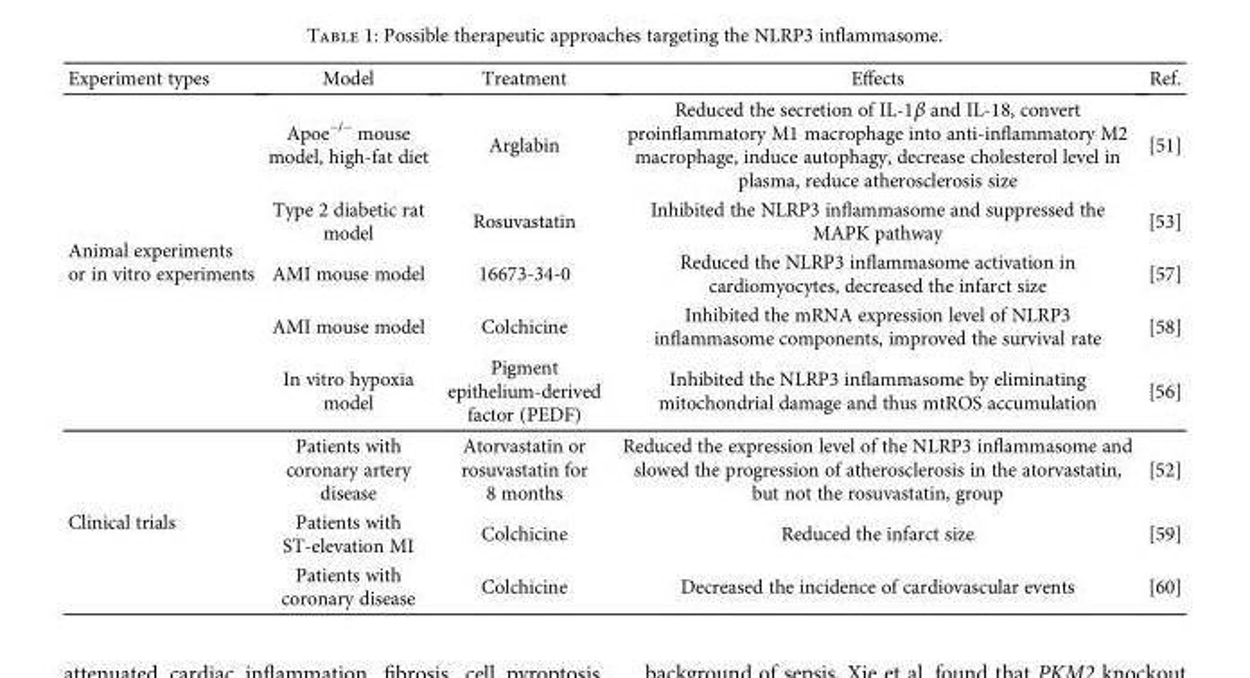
<table><thead><tr><td>Experiment types</td><td>Model</td><td>Treatment</td><td>Effects</td><td>Ref.</td></tr></thead><tbody><tr><td rowspan="5">Animal experiments or in vitro experiments</td><td>Apoe<sup>−/−</sup> mouse model, high-fat diet</td><td>Arglabin</td><td>Reduced the secretion of IL-1β and IL-18, convert proinflammatory M1 macrophage into anti-inflammatory M2 macrophage, induce autophagy, decrease cholesterol level in plasma, reduce atherosclerosis size</td><td>[51]</td></tr><tr><td>Type 2 diabetic rat model</td><td>Rosuvastatin</td><td>Inhibited the NLRP3 inflammasome and suppressed the MAPK pathway</td><td>[53]</td></tr><tr><td>AMI mouse model</td><td>16673-34-0</td><td>Reduced the NLRP3 inflammasome activation in cardiomyocytes, decreased the infarct size</td><td>[57]</td></tr><tr><td>AMI mouse model</td><td>Colchicine</td><td>Inhibited the mRNA expression level of NLRP3 inflammasome components, improved the survival rate</td><td>[58]</td></tr><tr><td>In vitro hypoxia model</td><td>Pigment epithelium-derived factor (PEDF)</td><td>Inhibited the NLRP3 inflammasome by eliminating mitochondrial damage and thus mtROS accumulation</td><td>[56]</td></tr><tr><td rowspan="3">Clinical trials</td><td>Patients with coronary artery disease</td><td>Atorvastatin or rosuvastatin for 8 months</td><td>Reduced the expression level of the NLRP3 inflammasome and slowed the progression of atherosclerosis in the atorvastatin, but not the rosuvastatin, group</td><td>[52]</td></tr><tr><td>Patients with ST-elevation MI</td><td>Colchicine</td><td>Reduced the infarct size</td><td>[59]</td></tr><tr><td>Patients with coronary disease</td><td>Colchicine</td><td>Decreased the incidence of cardiovascular events</td><td>[60]</td></tr></tbody></table>